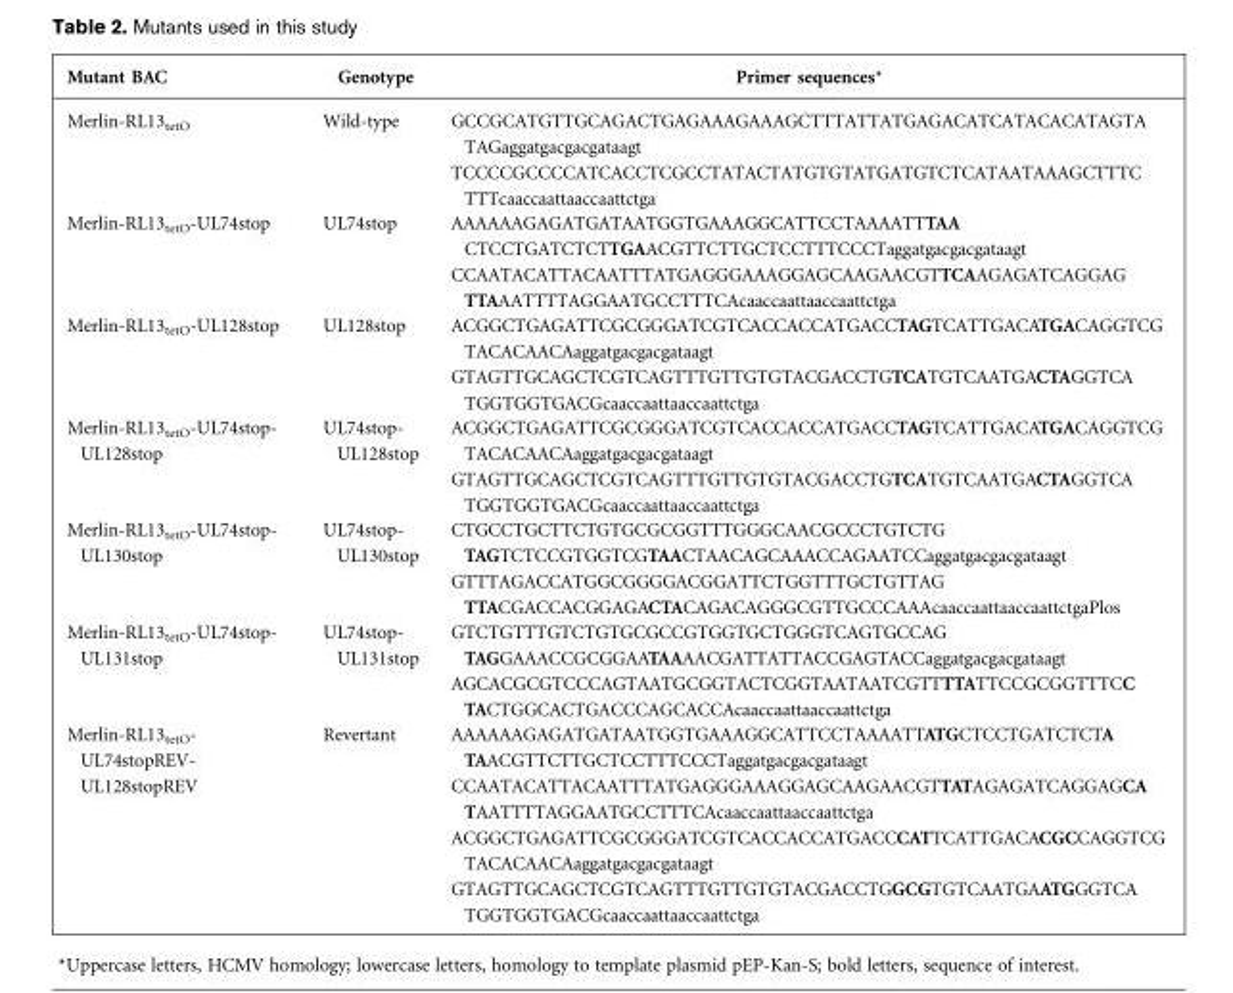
<table><thead><tr><td>Mutant BAC</td><td>Genotype</td><td>Primer sequences*</td></tr></thead><tbody><tr><td>Merlin-RL13<sub>tetO</sub></td><td>Wild-type</td><td>GCCGCATGTTGCAGACTGAGAAAGAAAGCTTTATTATGAGACATCATACACATAGTA TAGaggatgacgacgataagt TCCCCGCCCCATCACCTCGCCTATACTATGTGTATGATGTCTCATAATAAAGCTTTC TTTcaaccaattaaccaattctga</td></tr><tr><td>Merlin-RL13<sub>tetO</sub>-UL74stop</td><td>UL74stop</td><td>AAAAAAGAGATGATAATGGTGAAAGGCATTCCTAAAATTTAA CTCCTGATCTCTTGAACGTTCTTGCTCCTTTCCCTaggatgacgacgataagt CCAATACATTACAATTTATGAGGGAAAGGAGCAAGAACGTTCAAGAGATCAGGAG TTAAATTTTAGGAATGCCTTTCAcaaccaattaaccaattctga</td></tr><tr><td>Merlin-RL13<sub>tetO</sub>-UL128stop</td><td>UL128stop</td><td>ACGGCTGAGATTCGCGGGATCGTCACCACCATGACCTAGTCATTGACATGACAGGTCG TACACAACAaggatgacgacgataagt GTAGTTGCAGCTCGTCAGTTTGTTGTGTACGACCTGTCATGTCAATGACTAGGTCA TGGTGGTGACGcaaccaattaaccaattctga</td></tr><tr><td>Merlin-RL13<sub>tetO</sub>-UL74stop- UL128stop</td><td>UL74stop- UL128stop</td><td>ACGGCTGAGATTCGCGGGATCGTCACCACCATGACCTAGTCATTGACATGACAGGTCG TACACAACAaggatgacgacgataagt GTAGTTGCAGCTCGTCAGTTTGTTGTGTACGACCTGTCATGTCAATGACTAGGTCA TGGTGGTGACGcaaccaattaaccaattctga</td></tr><tr><td>Merlin-RL13<sub>tetO</sub>-UL74stop- UL130stop</td><td>UL74stop- UL130stop</td><td>CTGCCTGCTTCTGTGCGCGGTTTGGGCAACGCCCTGTCTG TAGTCTCCGTGGTCGTAACTAACAGCAAACCAGAATCCaggatgacgacgataagt GTTTAGACCATGGCGGGGACGGATTCTGGTTTGCTGTTAG TTACGACCACGGAGACTACAGACAGGGCGTTGCCCAAAcaaccaattaaccaattctgaPlos</td></tr><tr><td>Merlin-RL13<sub>tetO</sub>-UL74stop- UL131stop</td><td>UL74stop- UL131stop</td><td>GTCTGTTTGTCTGTGCGCCGTGGTGCTGGGTCAGTGCCAG TAGGAAACCGCGGAATAAAACGATTATTACCGAGTACCaggatgacgacgataagt AGCACGCGTCCCAGTAATGCGGTACTCGGTAATAATCGTTTTATTCCGCGGTTTCC TACTGGCACTGACCCAGCACCAcaaccaattaaccaattctga</td></tr><tr><td>Merlin-RL13<sub>tetO</sub>- UL74stopREV- UL128stopREV</td><td>Revertant</td><td>AAAAAAGAGATGATAATGGTGAAAGGCATTCCTAAAATTATGCTCCTGATCTCTA TAACGTTCTTGCTCCTTTCCCTaggatgacgacgataagt CCAATACATTACAATTTATGAGGGAAAGGAGCAAGAACGTTATAGAGATCAGGAGCA TAATTTTAGGAATGCCTTTCAcaaccaattaaccaattctga ACGGCTGAGATTCGCGGGATCGTCACCACCATGACCCATTCATTGACACGCCAGGTCG TACACAACAaggatgacgacgataagt GTAGTTGCAGCTCGTCAGTTTGTTGTGTACGACCTGGCGTGTCAATGAATGGGTCA TGGTGGTGACGcaaccaattaaccaattctga</td></tr></tbody></table>